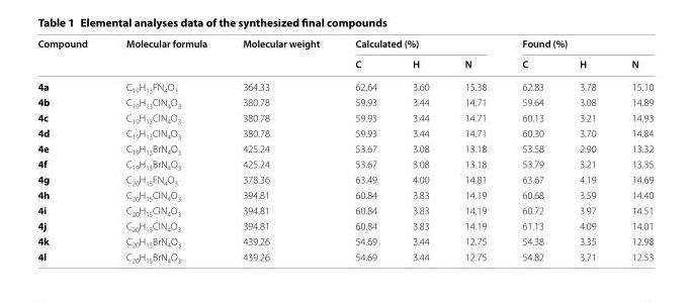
<table><thead><tr><td rowspan="2">Compound</td><td rowspan="2">Molecular formula</td><td rowspan="2">Molecular weight</td><td colspan="3">Calculated (%)</td><td colspan="3">Found (%)</td></tr><tr><td>C</td><td>H</td><td>N</td><td>C</td><td>H</td><td>N</td></tr></thead><tbody><tr><td>4a</td><td>C<sub>19</sub>H<sub>13</sub>FN<sub>4</sub>O<sub>3</sub></td><td>364.33</td><td>62.64</td><td>3.60</td><td>15.38</td><td>62.83</td><td>3.78</td><td>15.10</td></tr><tr><td>4b</td><td>C<sub>19</sub>H<sub>13</sub>ClN<sub>4</sub>O<sub>3</sub></td><td>380.78</td><td>59.93</td><td>3.44</td><td>14.71</td><td>59.64</td><td>3.08</td><td>14.89</td></tr><tr><td>4c</td><td>C<sub>19</sub>H<sub>13</sub>ClN<sub>4</sub>O<sub>3</sub></td><td>380.78</td><td>59.93</td><td>3.44</td><td>14.71</td><td>60.13</td><td>3.21</td><td>14.93</td></tr><tr><td>4d</td><td>C<sub>19</sub>H<sub>13</sub>ClN<sub>4</sub>O<sub>3</sub></td><td>380.78</td><td>59.93</td><td>3.44</td><td>14.71</td><td>60.30</td><td>3.70</td><td>14.84</td></tr><tr><td>4e</td><td>C<sub>19</sub>H<sub>13</sub>BrN<sub>4</sub>O<sub>3</sub></td><td>425.24</td><td>53.67</td><td>3.08</td><td>13.18</td><td>53.58</td><td>2.90</td><td>13.32</td></tr><tr><td>4f</td><td>C<sub>19</sub>H<sub>13</sub>BrN<sub>4</sub>O<sub>3</sub></td><td>425.24</td><td>53.67</td><td>3.08</td><td>13.18</td><td>53.79</td><td>3.21</td><td>13.35</td></tr><tr><td>4g</td><td>C<sub>20</sub>H<sub>15</sub>FN<sub>4</sub>O<sub>3</sub></td><td>378.36</td><td>63.49</td><td>4.00</td><td>14.81</td><td>63.67</td><td>4.19</td><td>14.69</td></tr><tr><td>4h</td><td>C<sub>20</sub>H<sub>15</sub>ClN<sub>4</sub>O<sub>3</sub></td><td>394.81</td><td>60.84</td><td>3.83</td><td>14.19</td><td>60.68</td><td>3.59</td><td>14.40</td></tr><tr><td>4i</td><td>C<sub>20</sub>H<sub>15</sub>ClN<sub>4</sub>O<sub>3</sub></td><td>394.81</td><td>60.84</td><td>3.83</td><td>14.19</td><td>60.72</td><td>3.97</td><td>14.51</td></tr><tr><td>4j</td><td>C<sub>20</sub>H<sub>15</sub>ClN<sub>4</sub>O<sub>3</sub></td><td>394.81</td><td>60.84</td><td>3.83</td><td>14.19</td><td>61.13</td><td>4.09</td><td>14.01</td></tr><tr><td>4k</td><td>C<sub>20</sub>H<sub>15</sub>BrN<sub>4</sub>O<sub>3</sub></td><td>439.26</td><td>54.69</td><td>3.44</td><td>12.75</td><td>54.38</td><td>3.35</td><td>12.98</td></tr><tr><td>4l</td><td>C<sub>20</sub>H<sub>15</sub>BrN<sub>4</sub>O<sub>3</sub></td><td>439.26</td><td>54.69</td><td>3.44</td><td>12.75</td><td>54.82</td><td>3.71</td><td>12.53</td></tr></tbody></table>